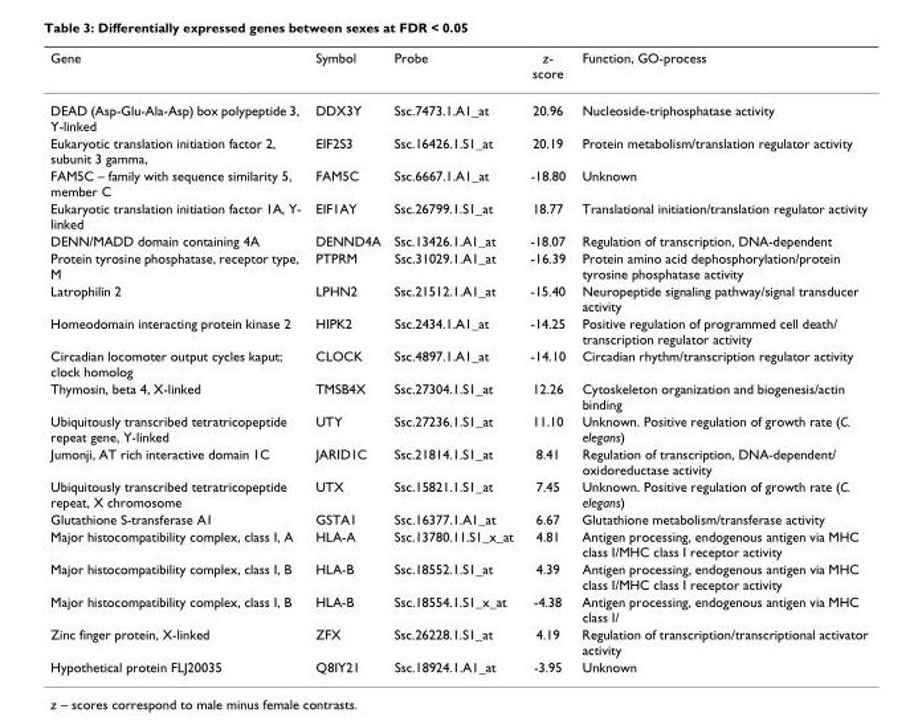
<table><thead><tr><td>Gene</td><td>Symbol</td><td>Probe</td><td>z- score</td><td>Function, GO-process</td></tr></thead><tbody><tr><td>DEAD (Asp-Glu-Ala-Asp) box polypeptide 3, Y-linked</td><td>DDX3Y</td><td>Ssc.7473.1.A1_at</td><td>20.96</td><td>Nucleoside-triphosphatase activity</td></tr><tr><td>Eukaryotic translation initiation factor 2, subunit 3 gamma,</td><td>EIF2S3</td><td>Ssc.16426.1.S1_at</td><td>20.19</td><td>Protein metabolism/translation regulator activity</td></tr><tr><td>FAM5C – family with sequence similarity 5, member C</td><td>FAM5C</td><td>Ssc.6667.1.A1_at</td><td>-18.80</td><td>Unknown</td></tr><tr><td>Eukaryotic translation initiation factor 1A, Y- linked</td><td>EIF1AY</td><td>Ssc.26799.1.S1_at</td><td>18.77</td><td>Translational initiation/translation regulator activity</td></tr><tr><td>DENN/MADD domain containing 4A</td><td>DENND4A</td><td>Ssc.13426.1.A1_at</td><td>-18.07</td><td>Regulation of transcription, DNA-dependent</td></tr><tr><td>Protein tyrosine phosphatase, receptor type, M</td><td>PTPRM</td><td>Ssc.31029.1.A1_at</td><td>-16.39</td><td>Protein amino acid dephosphorylation/protein tyrosine phosphatase activity</td></tr><tr><td>Latrophilin 2</td><td>LPHN2</td><td>Ssc.21512.1.A1_at</td><td>-15.40</td><td>Neuropeptide signaling pathway/signal transducer activity</td></tr><tr><td>Homeodomain interacting protein kinase 2</td><td>HIPK2</td><td>Ssc.2434.1.A1_at</td><td>-14.25</td><td>Positive regulation of programmed cell death/ transcription regulator activity</td></tr><tr><td>Circadian locomoter output cycles kaput; clock homolog</td><td>CLOCK</td><td>Ssc.4897.1.A1_at</td><td>-14.10</td><td>Circadian rhythm/transcription regulator activity</td></tr><tr><td>Thymosin, beta 4, X-linked</td><td>TMSB4X</td><td>Ssc.27304.1.S1_at</td><td>12.26</td><td>Cytoskeleton organization and biogenesis/actin binding</td></tr><tr><td>Ubiquitously transcribed tetratricopeptide repeat gene, Y-linked</td><td>UTY</td><td>Ssc.27236.1.S1_at</td><td>11.10</td><td>Unknown. Positive regulation of growth rate (C. elegans)</td></tr><tr><td>Jumonji, AT rich interactive domain 1C</td><td>JARID1C</td><td>Ssc.21814.1.S1_at</td><td>8.41</td><td>Regulation of transcription, DNA-dependent/ oxidoreductase activity</td></tr><tr><td>Ubiquitously transcribed tetratricopeptide repeat, X chromosome</td><td>UTX</td><td>Ssc.15821.1.S1_at</td><td>7.45</td><td>Unknown. Positive regulation of growth rate (C. elegans)</td></tr><tr><td>Glutathione S-transferase A1</td><td>GSTA1</td><td>Ssc.16377.1.A1_at</td><td>6.67</td><td>Glutathione metabolism/transferase activity</td></tr><tr><td>Major histocompatibility complex, class I, A</td><td>HLA-A</td><td>Ssc.13780.11.S1_x_at</td><td>4.81</td><td>Antigen processing, endogenous antigen via MHC class I/MHC class I receptor activity</td></tr><tr><td>Major histocompatibility complex, class I, B</td><td>HLA-B</td><td>Ssc.18552.1.S1_at</td><td>4.39</td><td>Antigen processing, endogenous antigen via MHC class I/MHC class I receptor activity</td></tr><tr><td>Major histocompatibility complex, class I, B</td><td>HLA-B</td><td>Ssc.18554.1.S1_x_at</td><td>-4.38</td><td>Antigen processing, endogenous antigen via MHC class I/</td></tr><tr><td>Zinc finger protein, X-linked</td><td>ZFX</td><td>Ssc.26228.1.S1_at</td><td>4.19</td><td>Regulation of transcription/transcriptional activator activity</td></tr><tr><td>Hypothetical protein FLJ20035</td><td>Q8IY21</td><td>Ssc.18924.1.A1_at</td><td>-3.95</td><td>Unknown</td></tr></tbody></table>